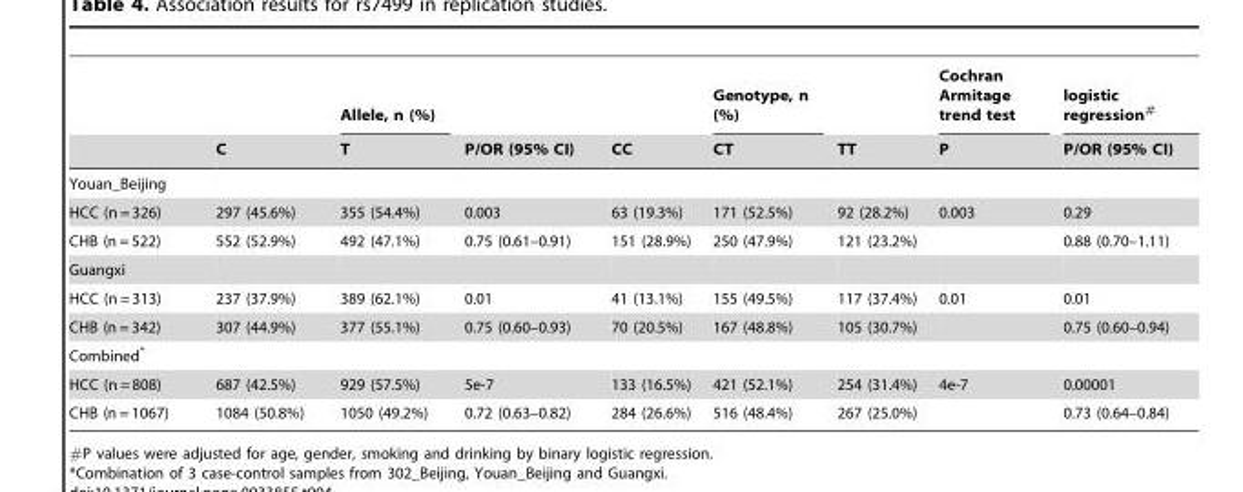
<table><thead><tr><td rowspan="2"></td><td rowspan="2">C</td><td rowspan="2">Allele, n (%) T</td><td rowspan="2">P/OR (95% CI)</td><td rowspan="2">CC</td><td rowspan="2">Genotype, n (%) CT</td><td rowspan="2">TT</td><td rowspan="2">Cochran Armitage trend test P</td><td rowspan="2">logistic regression# P/OR (95% CI)</td></tr><tr></tr></thead><tbody><tr><td colspan="9">Youan_Beijing</td></tr><tr><td>HCC (n = 326)</td><td>297 (45.6%)</td><td>355 (54.4%)</td><td>0.003</td><td>63 (19.3%)</td><td>171 (52.5%)</td><td>92 (28.2%)</td><td>0.003</td><td>0.29</td></tr><tr><td>CHB (n = 522)</td><td>552 (52.9%)</td><td>492 (47.1%)</td><td>0.75 (0.61–0.91)</td><td>151 (28.9%)</td><td>250 (47.9%)</td><td>121 (23.2%)</td><td></td><td>0.88 (0.70–1.11)</td></tr><tr><td colspan="9">Guangxi</td></tr><tr><td>HCC (n = 313)</td><td>237 (37.9%)</td><td>389 (62.1%)</td><td>0.01</td><td>41 (13.1%)</td><td>155 (49.5%)</td><td>117 (37.4%)</td><td>0.01</td><td>0.01</td></tr><tr><td>CHB (n = 342)</td><td>307 (44.9%)</td><td>377 (55.1%)</td><td>0.75 (0.60–0.93)</td><td>70 (20.5%)</td><td>167 (48.8%)</td><td>105 (30.7%)</td><td></td><td>0.75 (0.60–0.94)</td></tr><tr><td colspan="9">Combined*</td></tr><tr><td>HCC (n = 808)</td><td>687 (42.5%)</td><td>929 (57.5%)</td><td>5e-7</td><td>133 (16.5%)</td><td>421 (52.1%)</td><td>254 (31.4%)</td><td>4e-7</td><td>0.00001</td></tr><tr><td>CHB (n = 1067)</td><td>1084 (50.8%)</td><td>1050 (49.2%)</td><td>0.72 (0.63–0.82)</td><td>284 (26.6%)</td><td>516 (48.4%)</td><td>267 (25.0%)</td><td></td><td>0.73 (0.64–0.84)</td></tr></tbody></table>